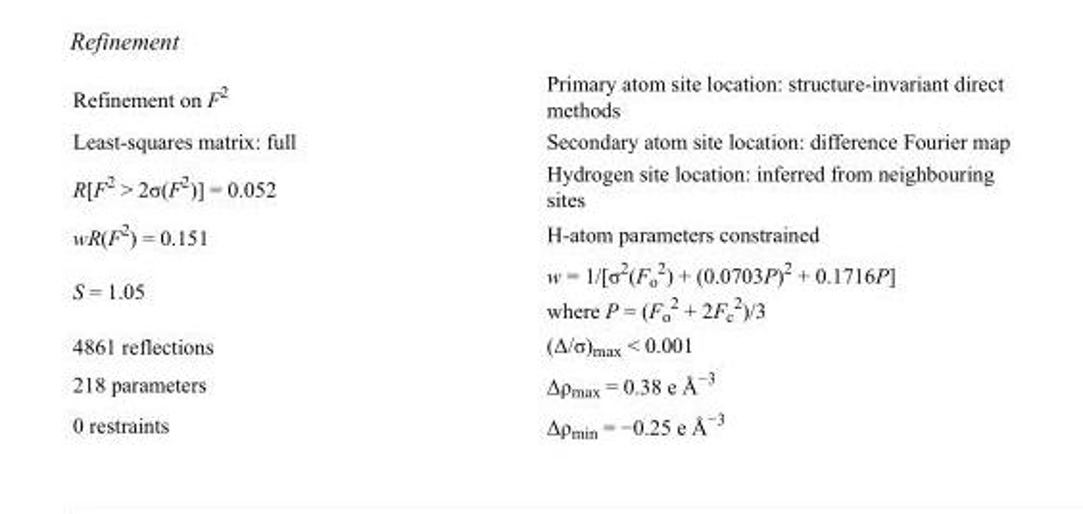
<table><tbody><tr><td>Refinement on F<sup>2</sup></td><td>Primary atom site location: structure-invariant direct methods</td></tr><tr><td>Least-squares matrix: full</td><td>Secondary atom site location: difference Fourier map</td></tr><tr><td>R[F<sup>2</sup> &gt; 2σ(F<sup>2</sup>)] = 0.052</td><td>Hydrogen site location: inferred from neighbouring sites</td></tr><tr><td>wR(F<sup>2</sup>) = 0.151</td><td>H-atom parameters constrained</td></tr><tr><td>S = 1.05</td><td>w = 1/[σ<sup>2</sup>(F<sub>o</sub> <sup>2</sup>) + (0.0703P)<sup>2</sup> + 0.1716P] where P = (F<sub>o</sub> <sup>2</sup> + 2F<sub>c</sub> <sup>2</sup>)/3</td></tr><tr><td>4861 reflections</td><td>(Δ/σ)<sub>max</sub> &lt; 0.001</td></tr><tr><td>218 parameters</td><td>Δρ<sub>max</sub> = 0.38 e Å<sup>−3</sup></td></tr><tr><td>0 restraints</td><td>Δρ<sub>min</sub> = −0.25 e Å<sup>−3</sup></td></tr></tbody></table>